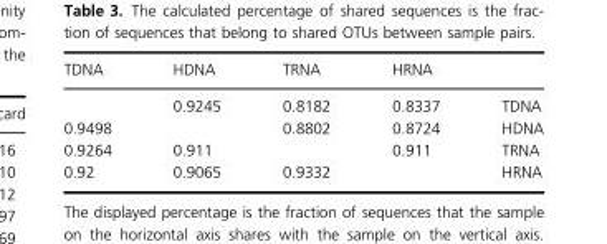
<table><thead><tr><td>TDNA</td><td>HDNA</td><td>TRNA</td><td>HRNA</td><td></td></tr></thead><tbody><tr><td></td><td>0.9245</td><td>0.8182</td><td>0.8337</td><td>TDNA</td></tr><tr><td>0.9498</td><td></td><td>0.8802</td><td>0.8724</td><td>HDNA</td></tr><tr><td>0.9264</td><td>0.911</td><td></td><td>0.911</td><td>TRNA</td></tr><tr><td>0.92</td><td>0.9065</td><td>0.9332</td><td></td><td>HRNA</td></tr></tbody></table>